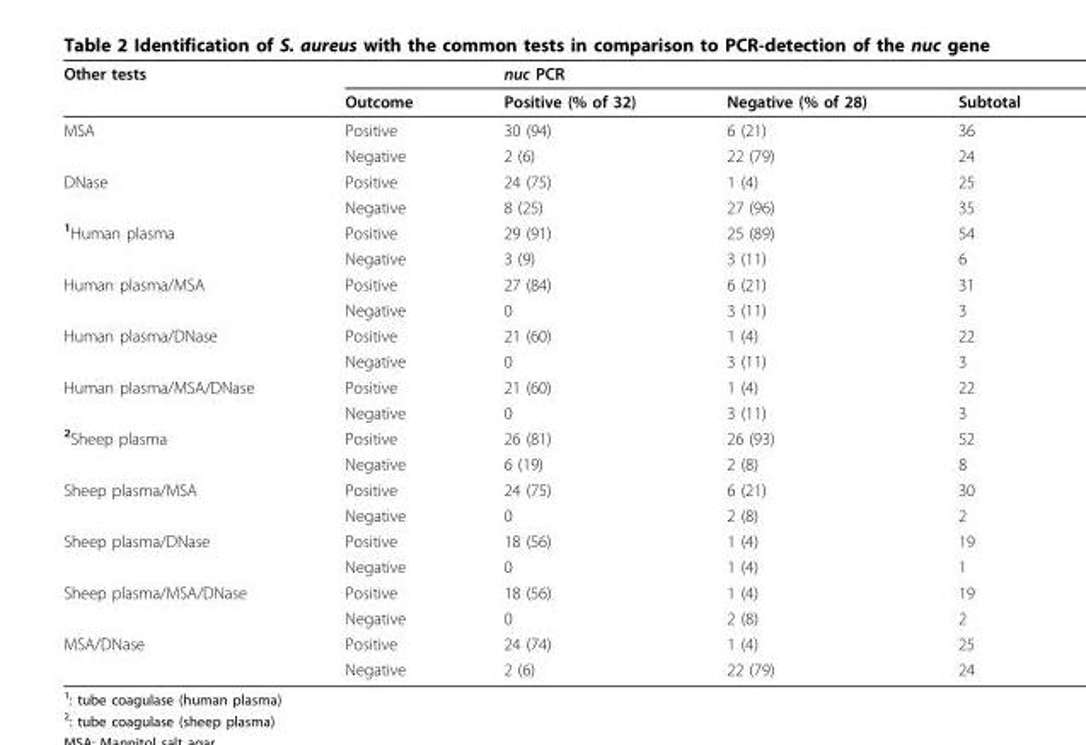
<table><thead><tr><td colspan="2">Other tests</td><td colspan="3">nuc PCR</td></tr><tr><td></td><td>Outcome</td><td>Positive (% of 32)</td><td>Negative (% of 28)</td><td>Subtotal</td></tr></thead><tbody><tr><td rowspan="2">MSA</td><td>Positive</td><td>30 (94)</td><td>6 (21)</td><td>36</td></tr><tr><td>Negative</td><td>2 (6)</td><td>22 (79)</td><td>24</td></tr><tr><td rowspan="2">DNase</td><td>Positive</td><td>24 (75)</td><td>1 (4)</td><td>25</td></tr><tr><td>Negative</td><td>8 (25)</td><td>27 (96)</td><td>35</td></tr><tr><td rowspan="2"><sup>1</sup>Human plasma</td><td>Positive</td><td>29 (91)</td><td>25 (89)</td><td>54</td></tr><tr><td>Negative</td><td>3 (9)</td><td>3 (11)</td><td>6</td></tr><tr><td rowspan="2">Human plasma/MSA</td><td>Positive</td><td>27 (84)</td><td>6 (21)</td><td>31</td></tr><tr><td>Negative</td><td>0</td><td>3 (11)</td><td>3</td></tr><tr><td rowspan="2">Human plasma/DNase</td><td>Positive</td><td>21 (60)</td><td>1 (4)</td><td>22</td></tr><tr><td>Negative</td><td>0</td><td>3 (11)</td><td>3</td></tr><tr><td rowspan="2">Human plasma/MSA/DNase</td><td>Positive</td><td>21 (60)</td><td>1 (4)</td><td>22</td></tr><tr><td>Negative</td><td>0</td><td>3 (11)</td><td>3</td></tr><tr><td rowspan="2"><sup>2</sup>Sheep plasma</td><td>Positive</td><td>26 (81)</td><td>26 (93)</td><td>52</td></tr><tr><td>Negative</td><td>6 (19)</td><td>2 (8)</td><td>8</td></tr><tr><td rowspan="2">Sheep plasma/MSA</td><td>Positive</td><td>24 (75)</td><td>6 (21)</td><td>30</td></tr><tr><td>Negative</td><td>0</td><td>2 (8)</td><td>2</td></tr><tr><td rowspan="2">Sheep plasma/DNase</td><td>Positive</td><td>18 (56)</td><td>1 (4)</td><td>19</td></tr><tr><td>Negative</td><td>0</td><td>1 (4)</td><td>1</td></tr><tr><td rowspan="2">Sheep plasma/MSA/DNase</td><td>Positive</td><td>18 (56)</td><td>1 (4)</td><td>19</td></tr><tr><td>Negative</td><td>0</td><td>2 (8)</td><td>2</td></tr><tr><td rowspan="2">MSA/DNase</td><td>Positive</td><td>24 (74)</td><td>1 (4)</td><td>25</td></tr><tr><td>Negative</td><td>2 (6)</td><td>22 (79)</td><td>24</td></tr></tbody></table>